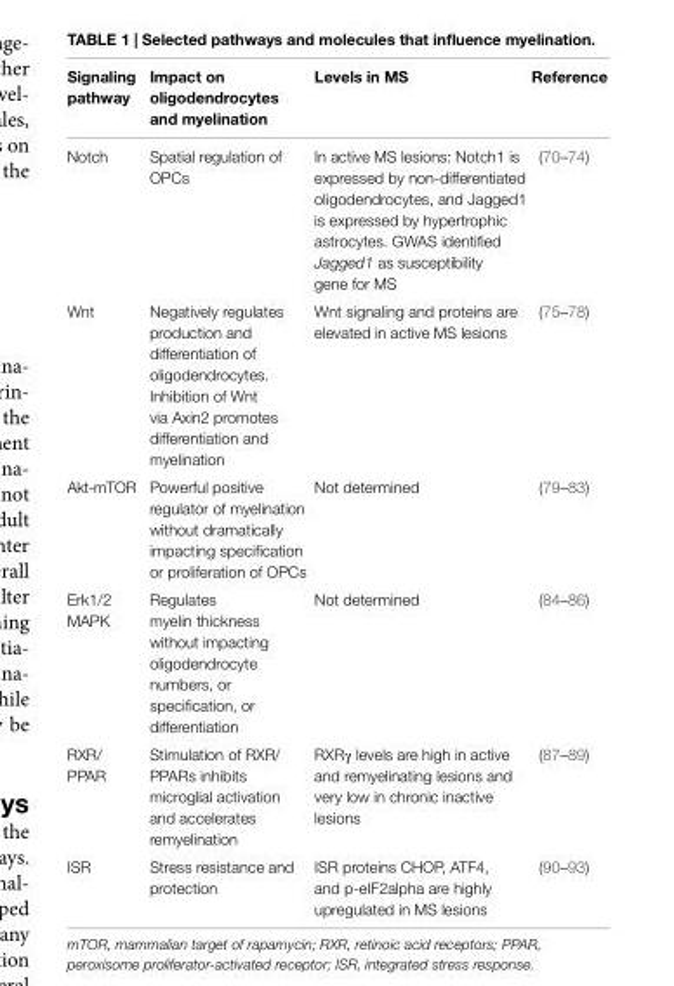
<table><thead><tr><td>Signaling pathway</td><td>impact on oligodendrocytes and myelination</td><td>Levels in MS</td><td>Reference</td></tr></thead><tbody><tr><td>Notch</td><td>Spatial regulation of OPCs</td><td>In active MS lesions: Notch1 is expressed by non-differentiated oligodendrocytes, and Jagged1 is expressed by hypertrophic astrocytes. GWAS identified Jagged1 as susceptibility gene for MS</td><td>(70–74)</td></tr><tr><td>Wnt</td><td>Negatively regulates production and differentiation of oligodendrocytes. Inhibition of Wnt via Axin2 promotes differentiation and myelination</td><td>Wnt signaling and proteins are elevated in active MS lesions</td><td>(75–78)</td></tr><tr><td>Akt-mTOR</td><td>Powerful positive regulator of myelination without dramatically impacting specification or proliferation of OPCs</td><td>Not determined</td><td>(79–83)</td></tr><tr><td>Erk1/2 MAPK</td><td>Regulates myelin thickness without impacting oligodendrocyte numbers, or specification, or differentiation</td><td>Not determined</td><td>(84–86)</td></tr><tr><td>RXR/ PPAR</td><td>Stimulation of RXR/ PPARs inhibits microglial activation and accelerates remyelination</td><td>RXRγ levels are high in active and remyelinating lesions and very low in chronic inactive lesions</td><td>(87–89)</td></tr><tr><td>ISR</td><td>Stress resistance and protection</td><td>ISR proteins CHOP, ATF4, and p-eIF2alpha are highly upregulated in MS lesions</td><td>(90–93)</td></tr></tbody></table>